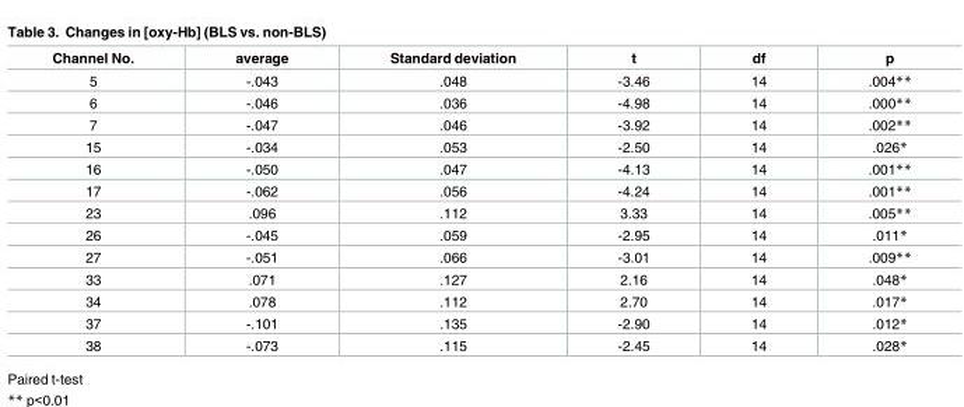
<table><thead><tr><td>Channel No.</td><td>average</td><td>Standard deviation</td><td>t</td><td>df</td><td>p</td></tr></thead><tbody><tr><td>5</td><td>-.043</td><td>.048</td><td>-3.46</td><td>14</td><td>.004**</td></tr><tr><td>6</td><td>-.046</td><td>.036</td><td>-4.98</td><td>14</td><td>.000**</td></tr><tr><td>7</td><td>-.047</td><td>.046</td><td>-3.92</td><td>14</td><td>.002**</td></tr><tr><td>15</td><td>-.034</td><td>.053</td><td>-2.50</td><td>14</td><td>.026*</td></tr><tr><td>16</td><td>-.050</td><td>.047</td><td>-4.13</td><td>14</td><td>.001**</td></tr><tr><td>17</td><td>-.062</td><td>.056</td><td>-4.24</td><td>14</td><td>.001**</td></tr><tr><td>23</td><td>.096</td><td>.112</td><td>3.33</td><td>14</td><td>.005**</td></tr><tr><td>26</td><td>-.045</td><td>.059</td><td>-2.95</td><td>14</td><td>.011*</td></tr><tr><td>27</td><td>-.051</td><td>.066</td><td>-3.01</td><td>14</td><td>.009**</td></tr><tr><td>33</td><td>.071</td><td>.127</td><td>2.16</td><td>14</td><td>.048*</td></tr><tr><td>34</td><td>.078</td><td>.112</td><td>2.70</td><td>14</td><td>.017*</td></tr><tr><td>37</td><td>-.101</td><td>.135</td><td>-2.90</td><td>14</td><td>.012*</td></tr><tr><td>38</td><td>-.073</td><td>.115</td><td>-2.45</td><td>14</td><td>.028*</td></tr></tbody></table>